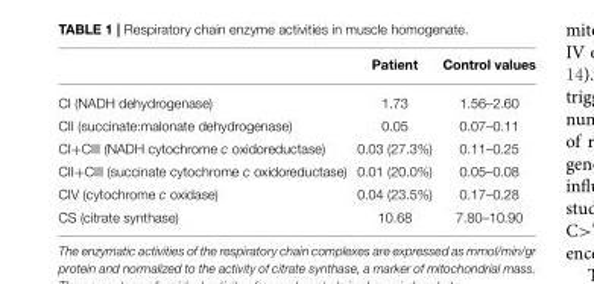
<table><thead><tr><td></td><td>Patient</td><td>Control values</td></tr></thead><tbody><tr><td>CI (NADH dehydrogenase)</td><td>1.73</td><td>1.56–2.60</td></tr><tr><td>CII (succinate:malonate dehydrogenase)</td><td>0.05</td><td>0.07–0.11</td></tr><tr><td>CI+CIII (NADH cytochrome c oxidoreductase)</td><td>0.03 (27.3%)</td><td>0.11–0.25</td></tr><tr><td>CII+CIII (succinate cytochrome c oxidoreductase)</td><td>0.01 (20.0%)</td><td>0.05–0.08</td></tr><tr><td>CIV (cytochrome c oxidase)</td><td>0.04 (23.5%)</td><td>0.17–0.28</td></tr><tr><td>CS (citrate synthase)</td><td>10.68</td><td>7.80–10.90</td></tr></tbody></table>